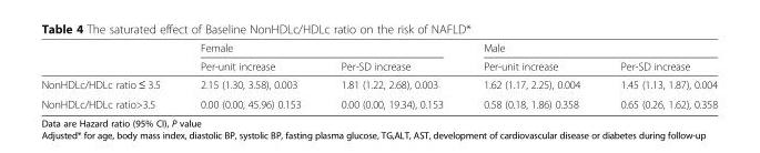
<table><thead><tr><td rowspan="2"></td><td colspan="2">Female</td><td colspan="2">Male</td></tr><tr><td>Per-unit increase</td><td>Per-SD increase</td><td>Per-unit increase</td><td>Per-SD increase</td></tr></thead><tbody><tr><td>NonHDLc/HDLc ratio ≤ 3.5</td><td>2.15 (1.30, 3.58), 0.003</td><td>1.81 (1.22, 2.68), 0.003</td><td>1.62 (1.17, 2.25), 0.004</td><td>1.45 (1.13, 1.87), 0.004</td></tr><tr><td>NonHDLc/HDLc ratio&gt;3.5</td><td>0.00 (0.00, 45.96) 0.153</td><td>0.00 (0.00, 19.34), 0.153</td><td>0.58 (0.18, 1.86) 0.358</td><td>0.65 (0.26, 1.62), 0.358</td></tr></tbody></table>